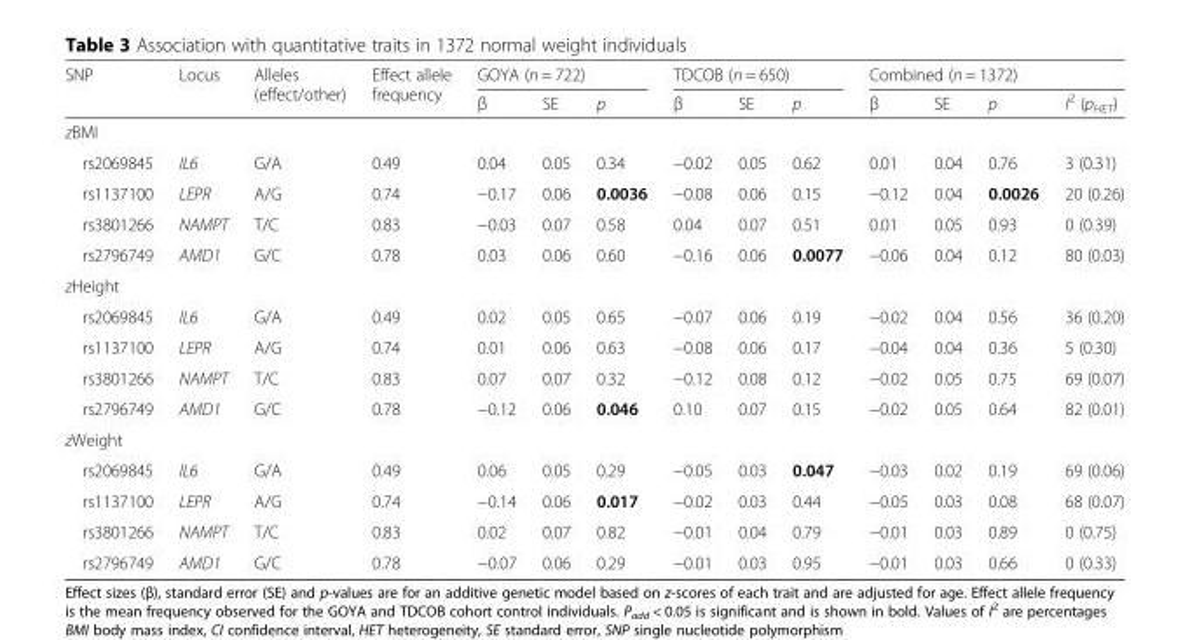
<table><thead><tr><td rowspan="2">SNP</td><td rowspan="2">Locus</td><td rowspan="2">Alleles (effect/other)</td><td rowspan="2">Effect allele frequency</td><td colspan="3">GOYA (n = 722)</td><td colspan="3">TDCOB (n = 650)</td><td colspan="4">Combined (n = 1372)</td></tr><tr><td>β</td><td>SE</td><td>p</td><td>β</td><td>SE</td><td>p</td><td>β</td><td>SE</td><td>p</td><td>I<sup>2</sup> (p<sub>HET</sub>)</td></tr></thead><tbody><tr><td colspan="14">zBMI</td></tr><tr><td>rs2069845</td><td>IL6</td><td>G/A</td><td>0.49</td><td>0.04</td><td>0.05</td><td>0.34</td><td>−0.02</td><td>0.05</td><td>0.62</td><td>0.01</td><td>0.04</td><td>0.76</td><td>3 (0.31)</td></tr><tr><td>rs1137100</td><td>LEPR</td><td>A/G</td><td>0.74</td><td>−0.17</td><td>0.06</td><td>0.0036</td><td>−0.08</td><td>0.06</td><td>0.15</td><td>−0.12</td><td>0.04</td><td>0.0026</td><td>20 (0.26)</td></tr><tr><td>rs3801266</td><td>NAMPT</td><td>T/C</td><td>0.83</td><td>−0.03</td><td>0.07</td><td>0.58</td><td>0.04</td><td>0.07</td><td>0.51</td><td>0.01</td><td>0.05</td><td>0.93</td><td>0 (0.39)</td></tr><tr><td>rs2796749</td><td>AMD1</td><td>G/C</td><td>0.78</td><td>0.03</td><td>0.06</td><td>0.60</td><td>−0.16</td><td>0.06</td><td>0.0077</td><td>−0.06</td><td>0.04</td><td>0.12</td><td>80 (0.03)</td></tr><tr><td colspan="14">zHeight</td></tr><tr><td>rs2069845</td><td>IL6</td><td>G/A</td><td>0.49</td><td>0.02</td><td>0.05</td><td>0.65</td><td>−0.07</td><td>0.06</td><td>0.19</td><td>−0.02</td><td>0.04</td><td>0.56</td><td>36 (0.20)</td></tr><tr><td>rs1137100</td><td>LEPR</td><td>A/G</td><td>0.74</td><td>0.01</td><td>0.06</td><td>0.63</td><td>−0.08</td><td>0.06</td><td>0.17</td><td>−0.04</td><td>0.04</td><td>0.36</td><td>5 (0.30)</td></tr><tr><td>rs3801266</td><td>NAMPT</td><td>T/C</td><td>0.83</td><td>0.07</td><td>0.07</td><td>0.32</td><td>−0.12</td><td>0.08</td><td>0.12</td><td>−0.02</td><td>0.05</td><td>0.75</td><td>69 (0.07)</td></tr><tr><td>rs2796749</td><td>AMD1</td><td>G/C</td><td>0.78</td><td>−0.12</td><td>0.06</td><td>0.046</td><td>0.10</td><td>0.07</td><td>0.15</td><td>−0.02</td><td>0.05</td><td>0.64</td><td>82 (0.01)</td></tr><tr><td colspan="14">zWeight</td></tr><tr><td>rs2069845</td><td>IL6</td><td>G/A</td><td>0.49</td><td>0.06</td><td>0.05</td><td>0.29</td><td>−0.05</td><td>0.03</td><td>0.047</td><td>−0.03</td><td>0.02</td><td>0.19</td><td>69 (0.06)</td></tr><tr><td>rs1137100</td><td>LEPR</td><td>A/G</td><td>0.74</td><td>−0.14</td><td>0.06</td><td>0.017</td><td>−0.02</td><td>0.03</td><td>0.44</td><td>−0.05</td><td>0.03</td><td>0.08</td><td>68 (0.07)</td></tr><tr><td>rs3801266</td><td>NAMPT</td><td>T/C</td><td>0.83</td><td>0.02</td><td>0.07</td><td>0.82</td><td>−0.01</td><td>0.04</td><td>0.79</td><td>−0.01</td><td>0.03</td><td>0.89</td><td>0 (0.75)</td></tr><tr><td>rs2796749</td><td>AMD1</td><td>G/C</td><td>0.78</td><td>−0.07</td><td>0.06</td><td>0.29</td><td>−0.01</td><td>0.03</td><td>0.95</td><td>−0.01</td><td>0.03</td><td>0.66</td><td>0 (0.33)</td></tr></tbody></table>